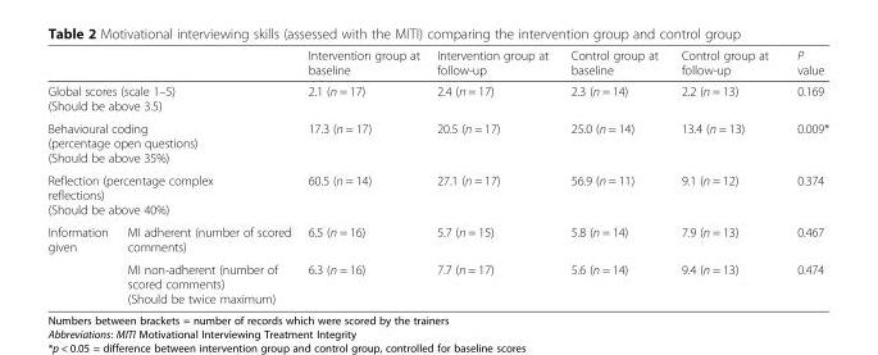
<table><thead><tr><td></td><td></td><td>Intervention group at baseline</td><td>Intervention group at follow-up</td><td>Control group at baseline</td><td>Control group at follow-up</td><td>P value</td></tr></thead><tbody><tr><td colspan="2">Global scores (scale 1–5) (Should be above 3.5)</td><td>2.1 (n = 17)</td><td>2.4 (n = 17)</td><td>2.3 (n = 14)</td><td>2.2 (n = 13)</td><td>0.169</td></tr><tr><td colspan="2">Behavioural coding (percentage open questions) (Should be above 35%)</td><td>17.3 (n = 17)</td><td>20.5 (n = 17)</td><td>25.0 (n = 14)</td><td>13.4 (n = 13)</td><td>0.009*</td></tr><tr><td colspan="2">Reflection (percentage complex reflections) (Should be above 40%)</td><td>60.5 (n = 14)</td><td>27.1 (n = 17)</td><td>56.9 (n = 11)</td><td>9.1 (n = 12)</td><td>0.374</td></tr><tr><td rowspan="2">Information given</td><td>MI adherent (number of scored comments)</td><td>6.5 (n = 16)</td><td>5.7 (n = 15)</td><td>5.8 (n = 14)</td><td>7.9 (n = 13)</td><td>0.467</td></tr><tr><td>MI non-adherent (number of scored comments) (Should be twice maximum)</td><td>6.3 (n = 16)</td><td>7.7 (n = 17)</td><td>5.6 (n = 14)</td><td>9.4 (n = 13)</td><td>0.474</td></tr></tbody></table>